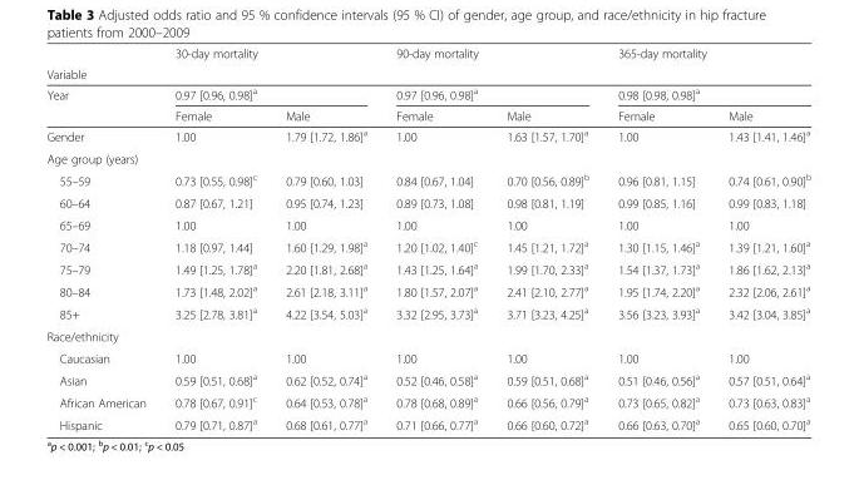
<table><thead><tr><td></td><td colspan="2">30-day mortality</td><td colspan="2">90-day mortality</td><td colspan="2">365-day mortality</td></tr><tr><td colspan="7">Variable</td></tr><tr><td rowspan="2">Year</td><td colspan="2">0.97 [0.96, 0.98]<sup>a</sup></td><td colspan="2">0.97 [0.96, 0.98]<sup>a</sup></td><td colspan="2">0.98 [0.98, 0.98]<sup>a</sup></td></tr><tr><td>Female</td><td>Male</td><td>Female</td><td>Male</td><td>Female</td><td>Male</td></tr></thead><tbody><tr><td>Gender</td><td>1.00</td><td>1.79 [1.72, 1.86]<sup>a</sup></td><td>1.00</td><td>1.63 [1.57, 1.70]<sup>a</sup></td><td>1.00</td><td>1.43 [1.41, 1.46]<sup>a</sup></td></tr><tr><td colspan="7">Age group (years)</td></tr><tr><td>55–59</td><td>0.73 [0.55, 0.98]<sup>c</sup></td><td>0.79 [0.60, 1.03]</td><td>0.84 [0.67, 1.04]</td><td>0.70 [0.56, 0.89]<sup>b</sup></td><td>0.96 [0.81, 1.15]</td><td>0.74 [0.61, 0.90]<sup>b</sup></td></tr><tr><td>60–64</td><td>0.87 [0.67, 1.21]</td><td>0.95 [0.74, 1.23]</td><td>0.89 [0.73, 1.08]</td><td>0.98 [0.81, 1.19]</td><td>0.99 [0.85, 1.16]</td><td>0.99 [0.83, 1.18]</td></tr><tr><td>65–69</td><td>1.00</td><td>1.00</td><td>1.00</td><td>1.00</td><td>1.00</td><td>1.00</td></tr><tr><td>70–74</td><td>1.18 [0.97, 1.44]</td><td>1.60 [1.29, 1.98]<sup>a</sup></td><td>1.20 [1.02, 1.40]<sup>c</sup></td><td>1.45 [1.21, 1.72]<sup>a</sup></td><td>1.30 [1.15, 1.46]<sup>a</sup></td><td>1.39 [1.21, 1.60]<sup>a</sup></td></tr><tr><td>75–79</td><td>1.49 [1.25, 1.78]<sup>a</sup></td><td>2.20 [1.81, 2.68]<sup>a</sup></td><td>1.43 [1.25, 1.64]<sup>a</sup></td><td>1.99 [1.70, 2.33]<sup>a</sup></td><td>1.54 [1.37, 1.73]<sup>a</sup></td><td>1.86 [1.62, 2.13]<sup>a</sup></td></tr><tr><td>80–84</td><td>1.73 [1.48, 2.02]<sup>a</sup></td><td>2.61 [2.18, 3.11]<sup>a</sup></td><td>1.80 [1.57, 2.07]<sup>a</sup></td><td>2.41 [2.10, 2.77]<sup>a</sup></td><td>1.95 [1.74, 2.20]<sup>a</sup></td><td>2.32 [2.06, 2.61]<sup>a</sup></td></tr><tr><td>85+</td><td>3.25 [2.78, 3.81]<sup>a</sup></td><td>4.22 [3.54, 5.03]<sup>a</sup></td><td>3.32 [2.95, 3.73]<sup>a</sup></td><td>3.71 [3.23, 4.25]<sup>a</sup></td><td>3.56 [3.23, 3.93]<sup>a</sup></td><td>3.42 [3.04, 3.85]<sup>a</sup></td></tr><tr><td colspan="7">Race/ethnicity</td></tr><tr><td>Caucasian</td><td>1.00</td><td>1.00</td><td>1.00</td><td>1.00</td><td>1.00</td><td>1.00</td></tr><tr><td>Asian</td><td>0.59 [0.51, 0.68]<sup>a</sup></td><td>0.62 [0.52, 0.74]<sup>a</sup></td><td>0.52 [0.46, 0.58]<sup>a</sup></td><td>0.59 [0.51, 0.68]<sup>a</sup></td><td>0.51 [0.46, 0.56]<sup>a</sup></td><td>0.57 [0.51, 0.64]<sup>a</sup></td></tr><tr><td>African American</td><td>0.78 [0.67, 0.91]<sup>c</sup></td><td>0.64 [0.53, 0.78]<sup>a</sup></td><td>0.78 [0.68, 0.89]<sup>a</sup></td><td>0.66 [0.56, 0.79]<sup>a</sup></td><td>0.73 [0.65, 0.82]<sup>a</sup></td><td>0.73 [0.63, 0.83]<sup>a</sup></td></tr><tr><td>Hispanic</td><td>0.79 [0.71, 0.87]<sup>a</sup></td><td>0.68 [0.61, 0.77]<sup>a</sup></td><td>0.71 [0.66, 0.77]<sup>a</sup></td><td>0.66 [0.60, 0.72]<sup>a</sup></td><td>0.66 [0.63, 0.70]<sup>a</sup></td><td>0.65 [0.60, 0.70]<sup>a</sup></td></tr></tbody></table>